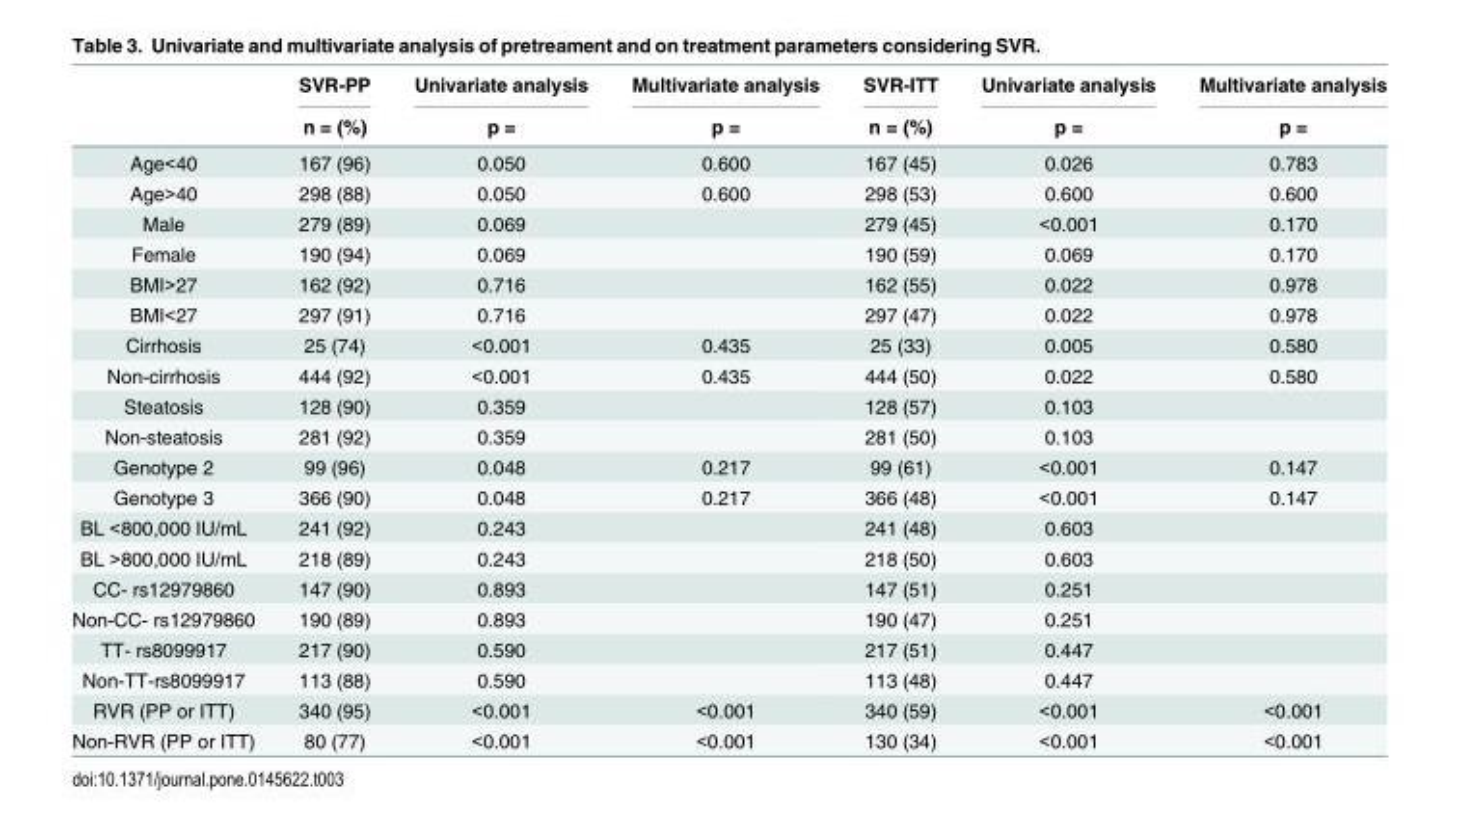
<table><thead><tr><td rowspan="2"></td><td rowspan="2">SVR-PP n = (%)</td><td rowspan="2">Univariate analysis p =</td><td rowspan="2">Multivariate analysis p =</td><td rowspan="2">SVR-ITT n = (%)</td><td rowspan="2">Univariate analysis p =</td><td rowspan="2">Multivariate analysis p =</td></tr><tr></tr></thead><tbody><tr><td>Age&lt;40</td><td>167 (96)</td><td>0.050</td><td>0.600</td><td>167 (45)</td><td>0.026</td><td>0.783</td></tr><tr><td>Age&gt;40</td><td>298 (88)</td><td>0.050</td><td>0.600</td><td>298 (53)</td><td>0.600</td><td>0.600</td></tr><tr><td>Male</td><td>279 (89)</td><td>0.069</td><td></td><td>279 (45)</td><td>&lt;0.001</td><td>0.170</td></tr><tr><td>Female</td><td>190 (94)</td><td>0.069</td><td></td><td>190 (59)</td><td>0.069</td><td>0.170</td></tr><tr><td>BMI&gt;27</td><td>162 (92)</td><td>0.716</td><td></td><td>162 (55)</td><td>0.022</td><td>0.978</td></tr><tr><td>BMI&lt;27</td><td>297 (91)</td><td>0.716</td><td></td><td>297 (47)</td><td>0.022</td><td>0.978</td></tr><tr><td>Cirrhosis</td><td>25 (74)</td><td>&lt;0.001</td><td>0.435</td><td>25 (33)</td><td>0.005</td><td>0.580</td></tr><tr><td>Non-cirrhosis</td><td>444 (92)</td><td>&lt;0.001</td><td>0.435</td><td>444 (50)</td><td>0.022</td><td>0.580</td></tr><tr><td>Steatosis</td><td>128 (90)</td><td>0.359</td><td></td><td>128 (57)</td><td>0.103</td><td></td></tr><tr><td>Non-steatosis</td><td>281 (92)</td><td>0.359</td><td></td><td>281 (50)</td><td>0.103</td><td></td></tr><tr><td>Genotype 2</td><td>99 (96)</td><td>0.048</td><td>0.217</td><td>99 (61)</td><td>&lt;0.001</td><td>0.147</td></tr><tr><td>Genotype 3</td><td>366 (90)</td><td>0.048</td><td>0.217</td><td>366 (48)</td><td>&lt;0.001</td><td>0.147</td></tr><tr><td>BL &lt;800,000 IU/mL</td><td>241 (92)</td><td>0.243</td><td></td><td>241 (48)</td><td>0.603</td><td></td></tr><tr><td>BL &gt;800,000 IU/mL</td><td>218 (89)</td><td>0.243</td><td></td><td>218 (50)</td><td>0.603</td><td></td></tr><tr><td>CC- rs12979860</td><td>147 (90)</td><td>0.893</td><td></td><td>147 (51)</td><td>0.251</td><td></td></tr><tr><td>Non-CC- rs12979860</td><td>190 (89)</td><td>0.893</td><td></td><td>190 (47)</td><td>0.251</td><td></td></tr><tr><td>TT- rs8099917</td><td>217 (90)</td><td>0.590</td><td></td><td>217 (51)</td><td>0.447</td><td></td></tr><tr><td>Non-TT-rs8099917</td><td>113 (88)</td><td>0.590</td><td></td><td>113 (48)</td><td>0.447</td><td></td></tr><tr><td>RVR (PP or ITT)</td><td>340 (95)</td><td>&lt;0.001</td><td>&lt;0.001</td><td>340 (59)</td><td>&lt;0.001</td><td>&lt;0.001</td></tr><tr><td>Non-RVR (PP or ITT)</td><td>80 (77)</td><td>&lt;0.001</td><td>&lt;0.001</td><td>130 (34)</td><td>&lt;0.001</td><td>&lt;0.001</td></tr></tbody></table>